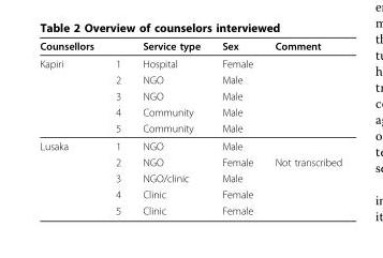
<table><thead><tr><td>Counsellors</td><td></td><td>Service type</td><td>Sex</td><td>Comment</td></tr></thead><tbody><tr><td rowspan="5">Kapiri</td><td>1</td><td>Hospital</td><td>Female</td><td></td></tr><tr><td>2</td><td>NGO</td><td>Male</td><td></td></tr><tr><td>3</td><td>NGO</td><td>Male</td><td></td></tr><tr><td>4</td><td>Community</td><td>Male</td><td></td></tr><tr><td>5</td><td>Community</td><td>Male</td><td></td></tr><tr><td rowspan="5">Lusaka</td><td>1</td><td>NGO</td><td>Male</td><td></td></tr><tr><td>2</td><td>NGO</td><td>Female</td><td>Not transcribed</td></tr><tr><td>3</td><td>NGO/clinic</td><td>Male</td><td></td></tr><tr><td>4</td><td>Clinic</td><td>Female</td><td></td></tr><tr><td>5</td><td>Clinic</td><td>Female</td><td></td></tr></tbody></table>